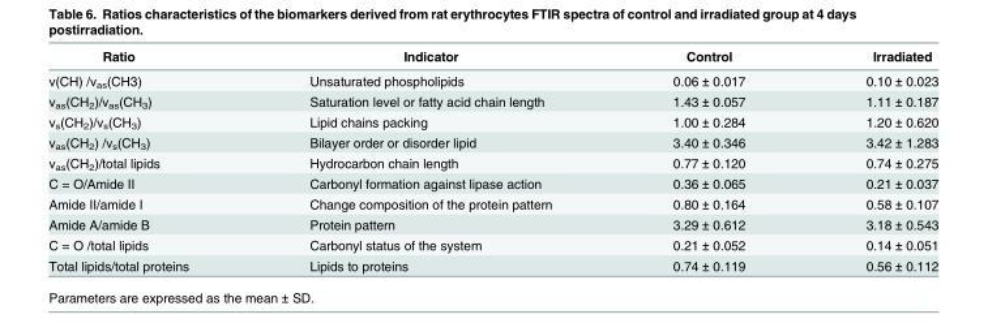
<table><thead><tr><td>Ratio</td><td>Indicator</td><td>Control</td><td>Irradiated</td></tr></thead><tbody><tr><td>ν(CH) /ν<sub>as</sub>(CH3)</td><td>Unsaturated phospholipids</td><td>0.06 ± 0.017</td><td>0.10 ± 0.023</td></tr><tr><td>ν<sub>as</sub>(CH<sub>2</sub>)/ν<sub>as</sub>(CH<sub>3</sub>)</td><td>Saturation level or fatty acid chain length</td><td>1.43 ± 0.057</td><td>1.11 ± 0.187</td></tr><tr><td>ν<sub>s</sub>(CH<sub>2</sub>)/ν<sub>s</sub>(CH<sub>3</sub>)</td><td>Lipid chains packing</td><td>1.00 ± 0.284</td><td>1.20 ± 0.620</td></tr><tr><td>ν<sub>as</sub>(CH<sub>2</sub>) /ν<sub>s</sub>(CH<sub>3</sub>)</td><td>Bilayer order or disorder lipid</td><td>3.40 ± 0.346</td><td>3.42 ± 1.283</td></tr><tr><td>ν<sub>as</sub>(CH<sub>2</sub>)/total lipids</td><td>Hydrocarbon chain length</td><td>0.77 ± 0.120</td><td>0.74 ± 0.275</td></tr><tr><td>C = O/Amide II</td><td>Carbonyl formation against lipase action</td><td>0.36 ± 0.065</td><td>0.21 ± 0.037</td></tr><tr><td>Amide II/amide I</td><td>Change composition of the protein pattern</td><td>0.80 ± 0.164</td><td>0.58 ± 0.107</td></tr><tr><td>Amide A/amide B</td><td>Protein pattern</td><td>3.29 ± 0.612</td><td>3.18 ± 0.543</td></tr><tr><td>C = O /total lipids</td><td>Carbonyl status of the system</td><td>0.21 ± 0.052</td><td>0.14 ± 0.051</td></tr><tr><td>Total lipids/total proteins</td><td>Lipids to proteins</td><td>0.74 ± 0.119</td><td>0.56 ± 0.112</td></tr></tbody></table>